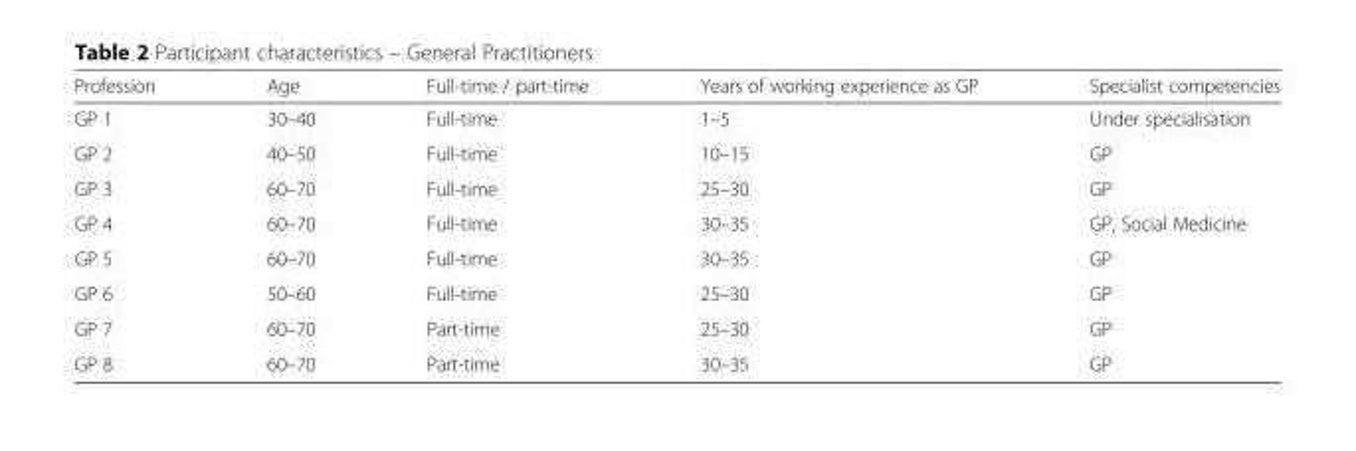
<table><thead><tr><td>Profession</td><td>Age</td><td>Full-time / part-time</td><td>Years of working experience as GP</td><td>Specialist competencies</td></tr></thead><tbody><tr><td>GP 1</td><td>30–40</td><td>Full-time</td><td>1–5</td><td>Under specialisation</td></tr><tr><td>GP 2</td><td>40–50</td><td>Full-time</td><td>10–15</td><td>GP</td></tr><tr><td>GP 3</td><td>60–70</td><td>Full-time</td><td>25–30</td><td>GP</td></tr><tr><td>GP 4</td><td>60–70</td><td>Full-time</td><td>30–35</td><td>GP, Social Medicine</td></tr><tr><td>GP 5</td><td>60–70</td><td>Full-time</td><td>30–35</td><td>GP</td></tr><tr><td>GP 6</td><td>50–60</td><td>Full-time</td><td>25–30</td><td>GP</td></tr><tr><td>GP 7</td><td>60–70</td><td>Part-time</td><td>25–30</td><td>GP</td></tr><tr><td>GP 8</td><td>60–70</td><td>Part-time</td><td>30–35</td><td>GP</td></tr></tbody></table>